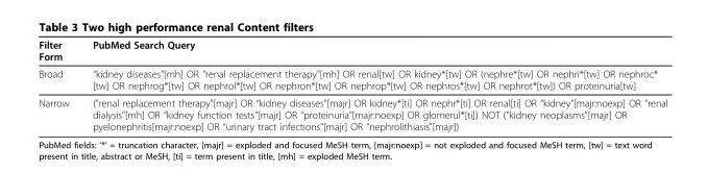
<table><thead><tr><td>Filter Form</td><td>PubMed Search Query</td></tr></thead><tbody><tr><td>Broad</td><td>“kidney diseases&quot;[mh] OR “renal replacement therapy&quot;[mh] OR renal[tw] OR kidney*[tw] OR (nephre*[tw] OR nephri*[tw] OR nephroc* [tw] OR nephrog*[tw] OR nephrol*[tw] OR nephron*[tw] OR nephrop*[tw] OR nephros*[tw] OR nephrot*[tw]) OR proteinuria[tw]</td></tr><tr><td>Narrow</td><td>(&quot;renal replacement therapy&quot;[majr] OR “kidney diseases&quot;[majr] OR kidney*[ti] OR nephr*[ti] OR renal[ti] OR “kidney&quot;[majr:noexp] OR “renal dialysis&quot;[mh] OR “kidney function tests&quot;[majr] OR “proteinuria&quot;[majr:noexp] OR glomerul*[ti]) NOT (&quot;kidney neoplasms&quot;[majr] OR pyelonephritis[majr:noexp] OR “urinary tract infections&quot;[majr] OR “nephrolithiasis&quot;[majr])</td></tr></tbody></table>